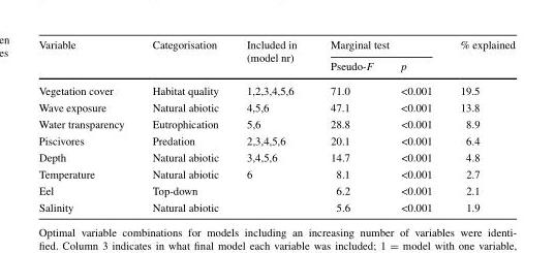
<table><thead><tr><td rowspan="2">Variable</td><td rowspan="2">Categorisation</td><td rowspan="2">Included in (model nr)</td><td colspan="2">Marginal test</td><td rowspan="2">% explained</td></tr><tr><td>Pseudo-F</td><td>p</td></tr></thead><tbody><tr><td>Vegetation cover</td><td>Habitat quality</td><td>1,2,3,4,5,6</td><td>71.0</td><td>&lt;0.001</td><td>19.5</td></tr><tr><td>Wave exposure</td><td>Natural abiotic</td><td>4,5,6</td><td>47.1</td><td>&lt;0.001</td><td>13.8</td></tr><tr><td>Water transparency</td><td>Eutrophication</td><td>5,6</td><td>28.8</td><td>&lt;0.001</td><td>8.9</td></tr><tr><td>Piscivores</td><td>Predation</td><td>2,3,4,5,6</td><td>20.1</td><td>&lt;0.001</td><td>6.4</td></tr><tr><td>Depth</td><td>Natural abiotic</td><td>3,4,5,6</td><td>14.7</td><td>&lt;0.001</td><td>4.8</td></tr><tr><td>Temperature</td><td>Natural abiotic</td><td>6</td><td>8.1</td><td>&lt;0.001</td><td>2.7</td></tr><tr><td>Eel</td><td>Top-down</td><td></td><td>6.2</td><td>&lt;0.001</td><td>2.1</td></tr><tr><td>Salinity</td><td>Natural abiotic</td><td></td><td>5.6</td><td>&lt;0.001</td><td>1.9</td></tr></tbody></table>